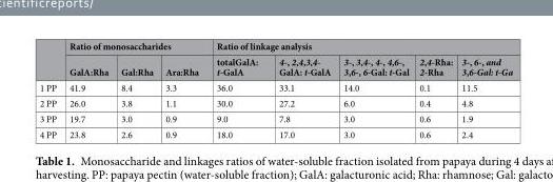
<table><thead><tr><td rowspan="2"></td><td colspan="3">Ratio of monosaccharides</td><td colspan="5">Ratio of linkage analysis</td></tr><tr><td>GalA:Rha</td><td>Gal:Rha</td><td>Ara:Rha</td><td>totalGalA: t-GalA</td><td>4-, 2,4,3,4- GalA: t-GalA</td><td>3-, 3,4-, 4-, 4,6-, 3,6-, 6-Gal: t-Gal</td><td>2,4-Rha: 2-Rha</td><td>3-, 6-, and 3,6-Gal: t-Ga</td></tr></thead><tbody><tr><td>1 PP</td><td>41.9</td><td>8.4</td><td>3.3</td><td>36.0</td><td>33.1</td><td>14.0</td><td>0.1</td><td>11.5</td></tr><tr><td>2 PP</td><td>26.0</td><td>3.8</td><td>1.1</td><td>30.0</td><td>27.2</td><td>6.0</td><td>0.4</td><td>4.8</td></tr><tr><td>3 PP</td><td>19.7</td><td>3.0</td><td>0.9</td><td>9.0</td><td>7.8</td><td>3.0</td><td>0.6</td><td>1.9</td></tr><tr><td>4 PP</td><td>23.8</td><td>2.6</td><td>0.9</td><td>18.0</td><td>17.0</td><td>3.0</td><td>0.6</td><td>2.4</td></tr></tbody></table>